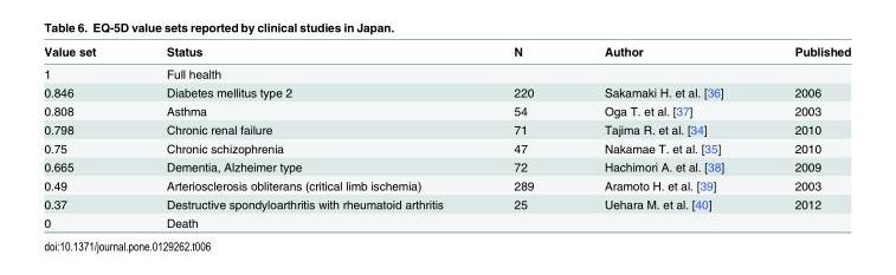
<table><thead><tr><td>Value set</td><td>Status</td><td>N</td><td>Author</td><td>Published</td></tr></thead><tbody><tr><td>1</td><td>Full health</td><td></td><td></td><td></td></tr><tr><td>0.846</td><td>Diabetes mellitus type 2</td><td>220</td><td>Sakamaki H. et al. [36]</td><td>2006</td></tr><tr><td>0.808</td><td>Asthma</td><td>54</td><td>Oga T. et al. [37]</td><td>2003</td></tr><tr><td>0.798</td><td>Chronic renal failure</td><td>71</td><td>Tajima R. et al. [34]</td><td>2010</td></tr><tr><td>0.75</td><td>Chronic schizophrenia</td><td>47</td><td>Nakamae T. et al. [35]</td><td>2010</td></tr><tr><td>0.665</td><td>Dementia, Alzheimer type</td><td>72</td><td>Hachimori A. et al. [38]</td><td>2009</td></tr><tr><td>0.49</td><td>Arteriosclerosis obliterans (critical limb ischemia)</td><td>289</td><td>Aramoto H. et al. [39]</td><td>2003</td></tr><tr><td>0.37</td><td>Destructive spondyloarthritis with rheumatoid arthritis</td><td>25</td><td>Uehara M. et al. [40]</td><td>2012</td></tr><tr><td>0</td><td>Death</td><td></td><td></td><td></td></tr></tbody></table>